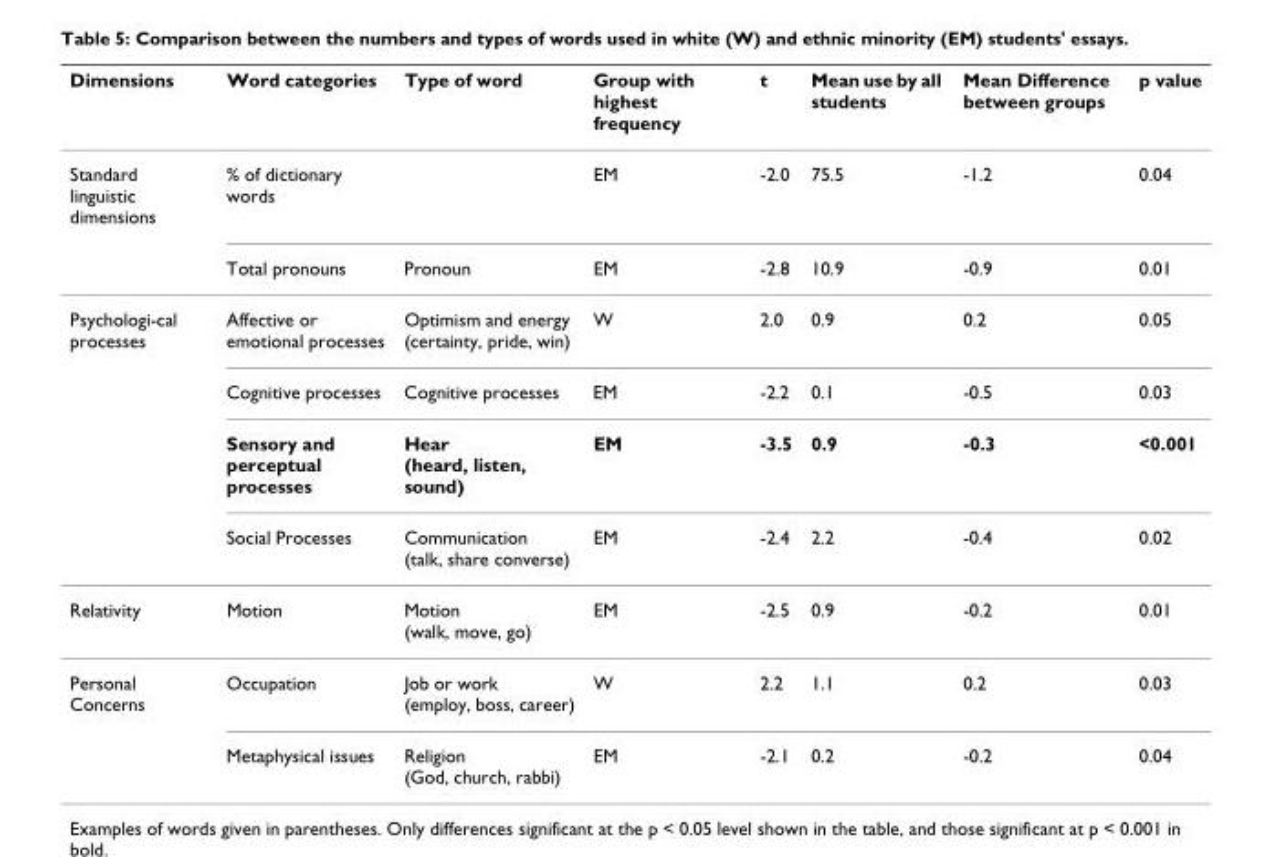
<table><thead><tr><td>Dimensions</td><td>Word categories</td><td>Type of word</td><td>Group with highest frequency</td><td>t</td><td>Mean use by all students</td><td>Mean Difference between groups</td><td>p value</td></tr></thead><tbody><tr><td rowspan="2">Standard linguistic dimensions</td><td>% of dictionary words</td><td></td><td>EM</td><td>-2.0</td><td>75.5</td><td>-1.2</td><td>0.04</td></tr><tr><td>Total pronouns</td><td>Pronoun</td><td>EM</td><td>-2.8</td><td>10.9</td><td>-0.9</td><td>0.01</td></tr><tr><td rowspan="4">Psychologi-cal processes</td><td>Affective or emotional processes</td><td>Optimism and energy (certainty, pride, win)</td><td>W</td><td>2.0</td><td>0.9</td><td>0.2</td><td>0.05</td></tr><tr><td>Cognitive processes</td><td>Cognitive processes</td><td>EM</td><td>-2.2</td><td>0.1</td><td>-0.5</td><td>0.03</td></tr><tr><td>Sensory and perceptual processes</td><td>Hear (heard, listen, sound)</td><td>EM</td><td>-3.5</td><td>0.9</td><td>-0.3</td><td>&lt;0.001</td></tr><tr><td>Social Processes</td><td>Communication (talk, share converse)</td><td>EM</td><td>-2.4</td><td>2.2</td><td>-0.4</td><td>0.02</td></tr><tr><td>Relativity</td><td>Motion</td><td>Motion (walk, move, go)</td><td>EM</td><td>-2.5</td><td>0.9</td><td>-0.2</td><td>0.01</td></tr><tr><td rowspan="2">Personal Concerns</td><td>Occupation</td><td>Job or work (employ, boss, career)</td><td>W</td><td>2.2</td><td>1.1</td><td>0.2</td><td>0.03</td></tr><tr><td>Metaphysical issues</td><td>Religion (God, church, rabbi)</td><td>EM</td><td>-2.1</td><td>0.2</td><td>-0.2</td><td>0.04</td></tr></tbody></table>